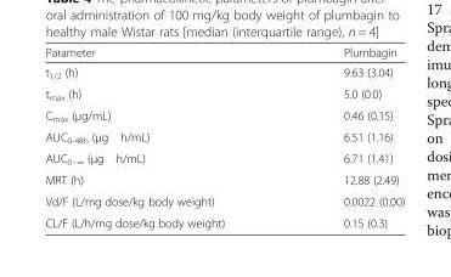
<table><thead><tr><td>Parameter</td><td>Plumbagin</td></tr></thead><tbody><tr><td>t<sub>1/2</sub> (h)</td><td>9.63 (3.04)</td></tr><tr><td>t<sub>max</sub> (h)</td><td>5.0 (0.0)</td></tr><tr><td>C<sub>max</sub> (μg/mL)</td><td>0.46 (0.15)</td></tr><tr><td>AUC0-48h (μg h/mL)</td><td>6.51 (1.16)</td></tr><tr><td>AUC0−∞ (μg h/mL)</td><td>6.71 (1.41)</td></tr><tr><td>MRT (h)</td><td>12.88 (2.49)</td></tr><tr><td>Vd/F (L/mg dose/kg body weight)</td><td>0.0022 (0.00)</td></tr><tr><td>CL/F (L/h/mg dose/kg body weight)</td><td>0.15 (0.3)</td></tr></tbody></table>